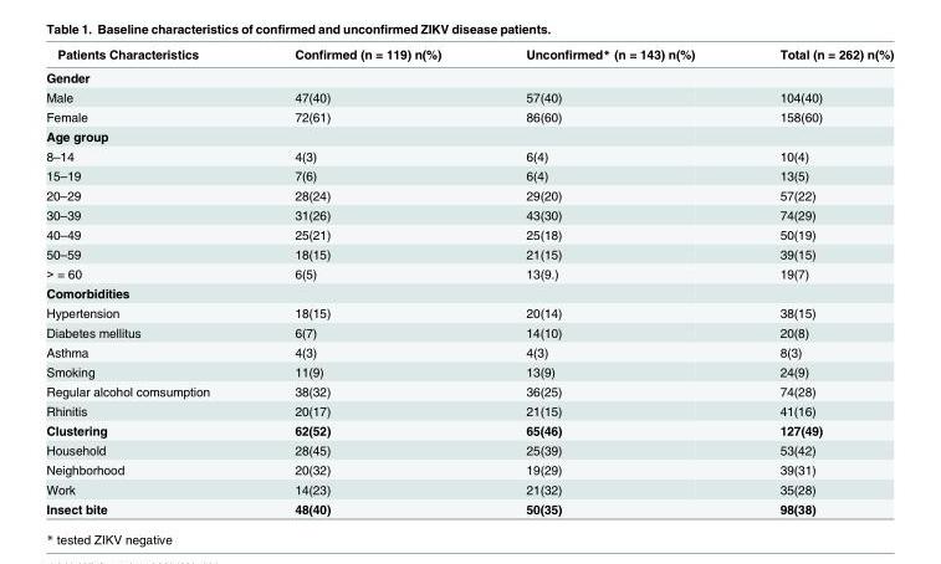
<table><thead><tr><td>Patients Characteristics</td><td>Confirmed (n = 119) n(%)</td><td>Unconfirmed* (n = 143) n(%)</td><td>Total (n = 262) n(%)</td></tr></thead><tbody><tr><td colspan="4">Gender</td></tr><tr><td>Male</td><td>47(40)</td><td>57(40)</td><td>104(40)</td></tr><tr><td>Female</td><td>72(61)</td><td>86(60)</td><td>158(60)</td></tr><tr><td colspan="4">Age group</td></tr><tr><td>8–14</td><td>4(3)</td><td>6(4)</td><td>10(4)</td></tr><tr><td>15–19</td><td>7(6)</td><td>6(4)</td><td>13(5)</td></tr><tr><td>20–29</td><td>28(24)</td><td>29(20)</td><td>57(22)</td></tr><tr><td>30–39</td><td>31(26)</td><td>43(30)</td><td>74(29)</td></tr><tr><td>40–49</td><td>25(21)</td><td>25(18)</td><td>50(19)</td></tr><tr><td>50–59</td><td>18(15)</td><td>21(15)</td><td>39(15)</td></tr><tr><td>&gt; = 60</td><td>6(5)</td><td>13(9.)</td><td>19(7)</td></tr><tr><td colspan="4">Comorbidities</td></tr><tr><td>Hypertension</td><td>18(15)</td><td>20(14)</td><td>38(15)</td></tr><tr><td>Diabetes mellitus</td><td>6(7)</td><td>14(10)</td><td>20(8)</td></tr><tr><td>Asthma</td><td>4(3)</td><td>4(3)</td><td>8(3)</td></tr><tr><td>Smoking</td><td>11(9)</td><td>13(9)</td><td>24(9)</td></tr><tr><td>Regular alcohol comsumption</td><td>38(32)</td><td>36(25)</td><td>74(28)</td></tr><tr><td>Rhinitis</td><td>20(17)</td><td>21(15)</td><td>41(16)</td></tr><tr><td>Clustering</td><td>62(52)</td><td>65(46)</td><td>127(49)</td></tr><tr><td>Household</td><td>28(45)</td><td>25(39)</td><td>53(42)</td></tr><tr><td>Neighborhood</td><td>20(32)</td><td>19(29)</td><td>39(31)</td></tr><tr><td>Work</td><td>14(23)</td><td>21(32)</td><td>35(28)</td></tr><tr><td>Insect bite</td><td>48(40)</td><td>50(35)</td><td>98(38)</td></tr></tbody></table>